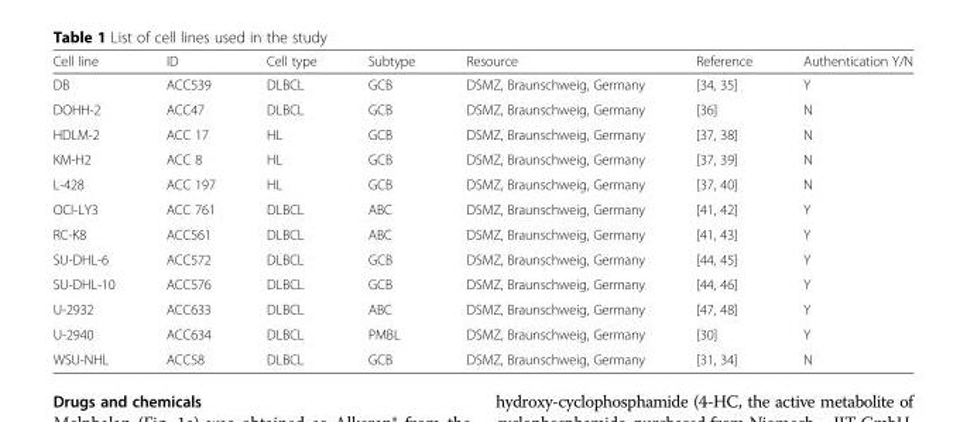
<table><thead><tr><td>Cell line</td><td>ID</td><td>Cell type</td><td>Subtype</td><td>Resource</td><td>Reference</td><td>Authentication Y/N</td></tr></thead><tbody><tr><td>DB</td><td>ACC539</td><td>DLBCL</td><td>GCB</td><td>DSMZ, Braunschweig, Germany</td><td>[34, 35]</td><td>Y</td></tr><tr><td>DOHH-2</td><td>ACC47</td><td>DLBCL</td><td>GCB</td><td>DSMZ, Braunschweig, Germany</td><td>[36]</td><td>N</td></tr><tr><td>HDLM-2</td><td>ACC 17</td><td>HL</td><td>GCB</td><td>DSMZ, Braunschweig, Germany</td><td>[37, 38]</td><td>N</td></tr><tr><td>KM-H2</td><td>ACC 8</td><td>HL</td><td>GCB</td><td>DSMZ, Braunschweig, Germany</td><td>[37, 39]</td><td>N</td></tr><tr><td>L-428</td><td>ACC 197</td><td>HL</td><td>GCB</td><td>DSMZ, Braunschweig, Germany</td><td>[37, 40]</td><td>N</td></tr><tr><td>OCI-LY3</td><td>ACC 761</td><td>DLBCL</td><td>ABC</td><td>DSMZ, Braunschweig, Germany</td><td>[41, 42]</td><td>Y</td></tr><tr><td>RC-K8</td><td>ACC561</td><td>DLBCL</td><td>ABC</td><td>DSMZ, Braunschweig, Germany</td><td>[41, 43]</td><td>Y</td></tr><tr><td>SU-DHL-6</td><td>ACC572</td><td>DLBCL</td><td>GCB</td><td>DSMZ, Braunschweig, Germany</td><td>[44, 45]</td><td>Y</td></tr><tr><td>SU-DHL-10</td><td>ACC576</td><td>DLBCL</td><td>GCB</td><td>DSMZ, Braunschweig, Germany</td><td>[44, 46]</td><td>Y</td></tr><tr><td>U-2932</td><td>ACC633</td><td>DLBCL</td><td>ABC</td><td>DSMZ, Braunschweig, Germany</td><td>[47, 48]</td><td>Y</td></tr><tr><td>U-2940</td><td>ACC634</td><td>DLBCL</td><td>PMBL</td><td>DSMZ, Braunschweig, Germany</td><td>[30]</td><td>Y</td></tr><tr><td>WSU-NHL</td><td>ACC58</td><td>DLBCL</td><td>GCB</td><td>DSMZ, Braunschweig, Germany</td><td>[31, 34]</td><td>N</td></tr></tbody></table>